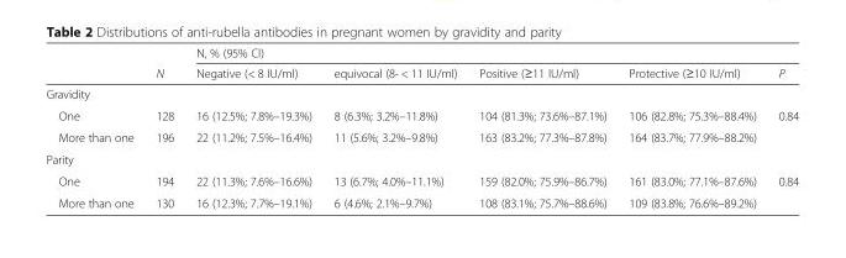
<table><thead><tr><td rowspan="2"></td><td rowspan="2">N</td><td colspan="5">N, % (95% CI)</td></tr><tr><td>Negative (&lt; 8 IU/ml)</td><td>equivocal (8- &lt; 11 IU/ml)</td><td>Positive (≥11 IU/ml)</td><td>Protective (≥10 IU/ml)</td><td>P</td></tr></thead><tbody><tr><td colspan="7">Gravidity</td></tr><tr><td>One</td><td>128</td><td>16 (12.5%; 7.8%–19.3%)</td><td>8 (6.3%; 3.2%–11.8%)</td><td>104 (81.3%; 73.6%–87.1%)</td><td>106 (82.8%; 75.3%–88.4%)</td><td>0.84</td></tr><tr><td>More than one</td><td>196</td><td>22 (11.2%; 7.5%–16.4%)</td><td>11 (5.6%; 3.2%–9.8%)</td><td>163 (83.2%; 77.3%–87.8%)</td><td>164 (83.7%; 77.9%–88.2%)</td><td></td></tr><tr><td colspan="7">Parity</td></tr><tr><td>One</td><td>194</td><td>22 (11.3%; 7.6%–16.6%)</td><td>13 (6.7%; 4.0%–11.1%)</td><td>159 (82.0%; 75.9%–86.7%)</td><td>161 (83.0%; 77.1%–87.6%)</td><td>0.84</td></tr><tr><td>More than one</td><td>130</td><td>16 (12.3%; 7.7%–19.1%)</td><td>6 (4.6%; 2.1%–9.7%)</td><td>108 (83.1%; 75.7%–88.6%)</td><td>109 (83.8%; 76.6%–89.2%)</td><td></td></tr></tbody></table>